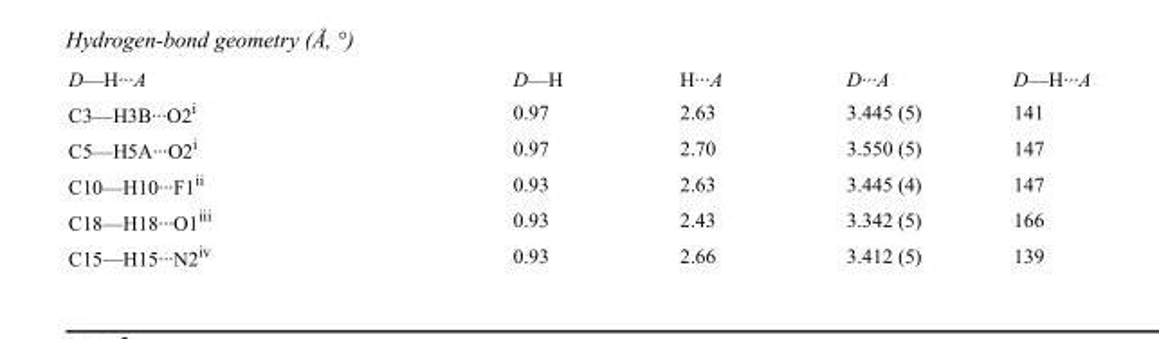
<table><tbody><tr><td>D—H···A</td><td>D—H</td><td>H···A</td><td>D···A</td><td>D—H···A</td></tr><tr><td>C3—H3B···O2<sup>i</sup></td><td>0.97</td><td>2.63</td><td>3.445 (5)</td><td>141</td></tr><tr><td>C5—H5A···O2<sup>i</sup></td><td>0.97</td><td>2.70</td><td>3.550 (5)</td><td>147</td></tr><tr><td>C10—H10···F1<sup>ii</sup></td><td>0.93</td><td>2.63</td><td>3.445 (4)</td><td>147</td></tr><tr><td>C18—H18···O1<sup>iii</sup></td><td>0.93</td><td>2.43</td><td>3.342 (5)</td><td>166</td></tr><tr><td>C15—H15···N2<sup>iv</sup></td><td>0.93</td><td>2.66</td><td>3.412 (5)</td><td>139</td></tr></tbody></table>